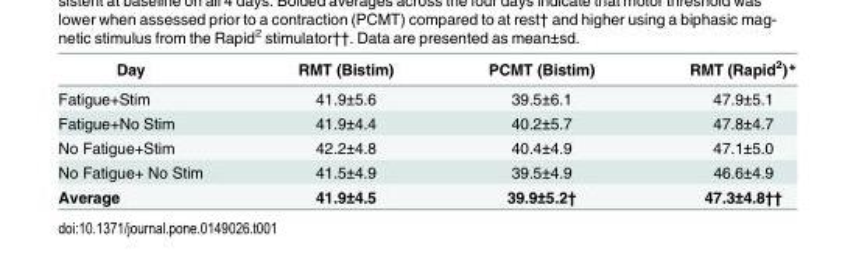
<table><thead><tr><td>Day</td><td>RMT (Bistim)</td><td>PCMT (Bistim)</td><td>RMT (Rapid<sup>2</sup>)*</td></tr></thead><tbody><tr><td>Fatigue+Stim</td><td>41.9±5.6</td><td>39.5±6.1</td><td>47.9±5.1</td></tr><tr><td>Fatigue+No Stim</td><td>41.9±4.4</td><td>40.2±5.7</td><td>47.8±4.7</td></tr><tr><td>No Fatigue+Stim</td><td>42.2±4.8</td><td>40.4±4.9</td><td>47.1±5.0</td></tr><tr><td>No Fatigue+ No Stim</td><td>41.5±4.9</td><td>39.5±4.9</td><td>46.6±4.9</td></tr><tr><td>Average</td><td>41.9±4.5</td><td>39.9±5.2†</td><td>47.3±4.8††</td></tr></tbody></table>